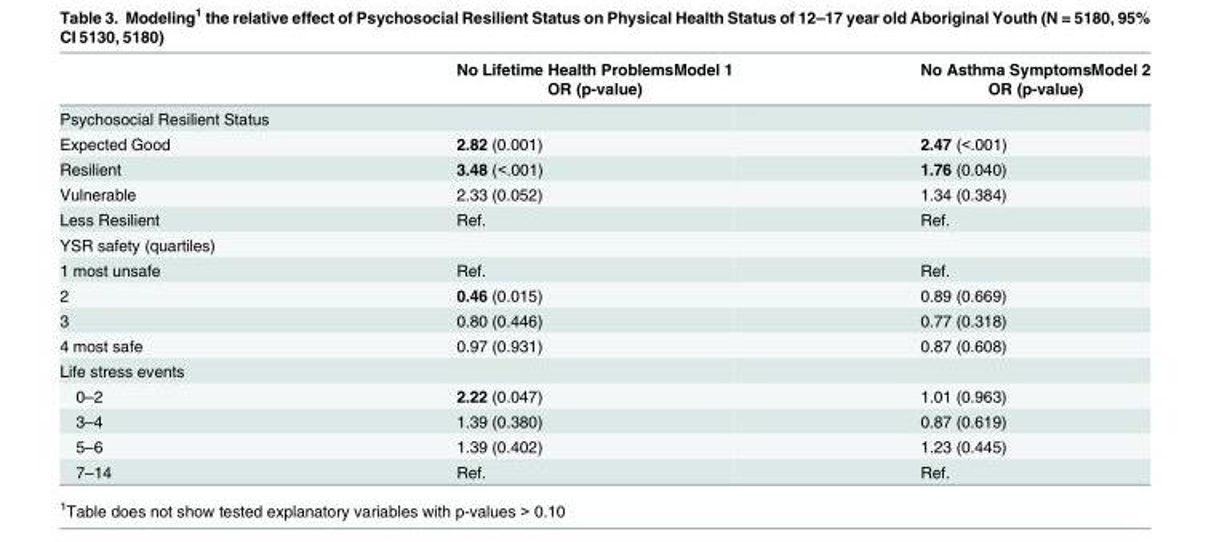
<table><thead><tr><td rowspan="2"></td><td rowspan="2">No Lifetime Health ProblemsModel 1 OR (p-value)</td><td rowspan="2">No Asthma SymptomsModel 2 OR (p-value)</td></tr><tr></tr></thead><tbody><tr><td colspan="3">Psychosocial Resilient Status</td></tr><tr><td>Expected Good</td><td>2.82 (0.001)</td><td>2.47 (&lt;.001)</td></tr><tr><td>Resilient</td><td>3.48 (&lt;.001)</td><td>1.76 (0.040)</td></tr><tr><td>Vulnerable</td><td>2.33 (0.052)</td><td>1.34 (0.384)</td></tr><tr><td>Less Resilient</td><td>Ref.</td><td>Ref.</td></tr><tr><td colspan="3">YSR safety (quartiles)</td></tr><tr><td>1 most unsafe</td><td>Ref.</td><td>Ref.</td></tr><tr><td>2</td><td>0.46 (0.015)</td><td>0.89 (0.669)</td></tr><tr><td>3</td><td>0.80 (0.446)</td><td>0.77 (0.318)</td></tr><tr><td>4 most safe</td><td>0.97 (0.931)</td><td>0.87 (0.608)</td></tr><tr><td colspan="3">Life stress events</td></tr><tr><td>0–2</td><td>2.22 (0.047)</td><td>1.01 (0.963)</td></tr><tr><td>3–4</td><td>1.39 (0.380)</td><td>0.87 (0.619)</td></tr><tr><td>5–6</td><td>1.39 (0.402)</td><td>1.23 (0.445)</td></tr><tr><td>7–14</td><td>Ref.</td><td>Ref.</td></tr></tbody></table>